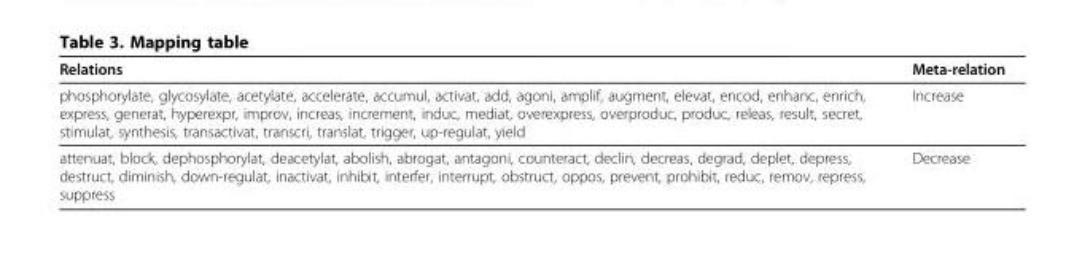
<table><thead><tr><td>Relations</td><td>Meta-relation</td></tr></thead><tbody><tr><td>phosphorylate, glycosylate, acetylate, accelerate, accumul, activat, add, agoni, amplif, augment, elevat, encod, enhanc, enrich, express, generat, hyperexpr, improv, increas, increment, induc, mediat, overexpress, overproduc, produc, releas, result, secret, stimulat, synthesis, transactivat, transcri, translat, trigger, up-regulat, yield</td><td>Increase</td></tr><tr><td>attenuat, block, dephosphorylat, deacetylat, abolish, abrogat, antagoni, counteract, declin, decreas, degrad, deplet, depress, destruct, diminish, down-regulat, inactivat, inhibit, interfer, interrupt, obstruct, oppos, prevent, prohibit, reduc, remov, repress, suppress</td><td>Decrease</td></tr></tbody></table>